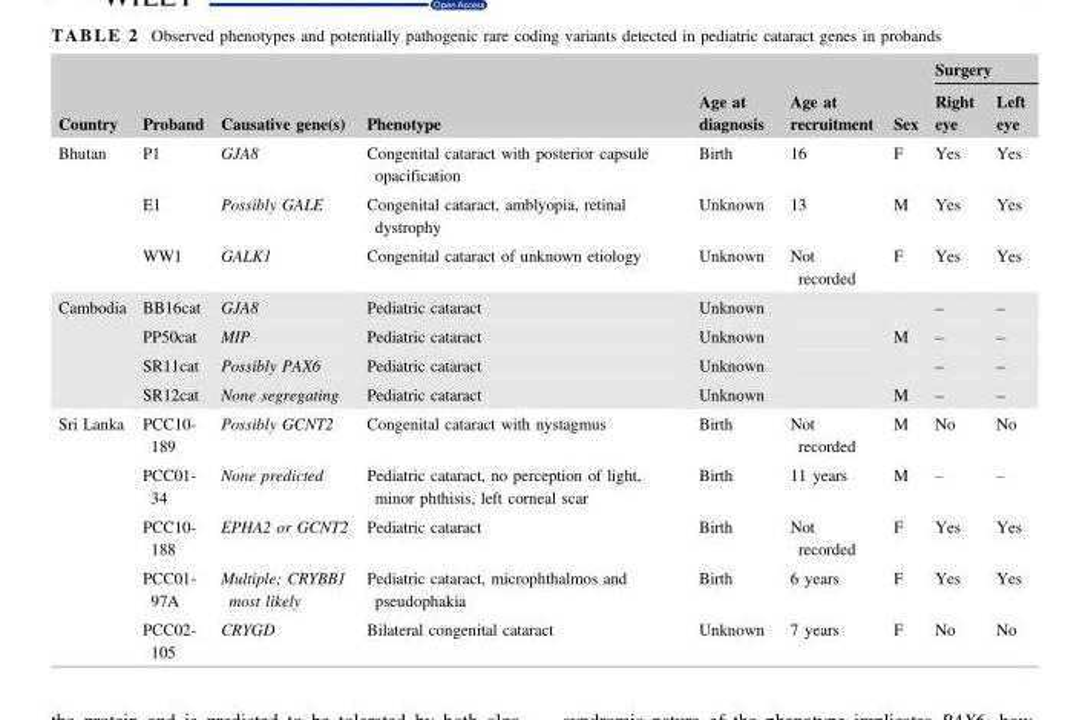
<table><thead><tr><td rowspan="2">Country</td><td rowspan="2">Proband</td><td rowspan="2">Causative gene(s)</td><td rowspan="2">Phenotype</td><td rowspan="2">Age at diagnosis</td><td rowspan="2">Age at recruitment</td><td rowspan="2">Sex</td><td colspan="2">Surgery</td></tr><tr><td>Right eye</td><td>Left eye</td></tr></thead><tbody><tr><td rowspan="3">Bhutan</td><td>P1</td><td>GJA8</td><td>Congenital cataract with posterior capsule opacification</td><td>Birth</td><td>16</td><td>F</td><td>Yes</td><td>Yes</td></tr><tr><td>E1</td><td>Possibly GALE</td><td>Congenital cataract, amblyopia, retinal dystrophy</td><td>Unknown</td><td>13</td><td>M</td><td>Yes</td><td>Yes</td></tr><tr><td>WW1</td><td>GALK1</td><td>Congenital cataract of unknown etiology</td><td>Unknown</td><td>Not recorded</td><td>F</td><td>Yes</td><td>Yes</td></tr><tr><td rowspan="4">Cambodia</td><td>BB16cat</td><td>GJA8</td><td>Pediatric cataract</td><td>Unknown</td><td></td><td></td><td>–</td><td>–</td></tr><tr><td>PP50cat</td><td>MIP</td><td>Pediatric cataract</td><td>Unknown</td><td></td><td>M</td><td>–</td><td>–</td></tr><tr><td>SR11cat</td><td>Possibly PAX6</td><td>Pediatric cataract</td><td>Unknown</td><td></td><td></td><td>–</td><td>–</td></tr><tr><td>SR12cat</td><td>None segregating</td><td>Pediatric cataract</td><td>Unknown</td><td></td><td>M</td><td>–</td><td>–</td></tr><tr><td rowspan="5">Sri Lanka</td><td>PCC10- 189</td><td>Possibly GCNT2</td><td>Congenital cataract with nystagmus</td><td>Birth</td><td>Not recorded</td><td>M</td><td>No</td><td>No</td></tr><tr><td>PCC01- 34</td><td>None predicted</td><td>Pediatric cataract, no perception of light, minor phthisis, left corneal scar</td><td>Birth</td><td>11 years</td><td>M</td><td>–</td><td>–</td></tr><tr><td>PCC10- 188</td><td>EPHA2 or GCNT2</td><td>Pediatric cataract</td><td>Birth</td><td>Not recorded</td><td>F</td><td>Yes</td><td>Yes</td></tr><tr><td>PCC01- 97A</td><td>Multiple; CRYBB1 most likely</td><td>Pediatric cataract, microphthalmos and pseudophakia</td><td>Birth</td><td>6 years</td><td>F</td><td>Yes</td><td>Yes</td></tr><tr><td>PCC02- 105</td><td>CRYGD</td><td>Bilateral congenital cataract</td><td>Unknown</td><td>7 years</td><td>F</td><td>No</td><td>No</td></tr></tbody></table>